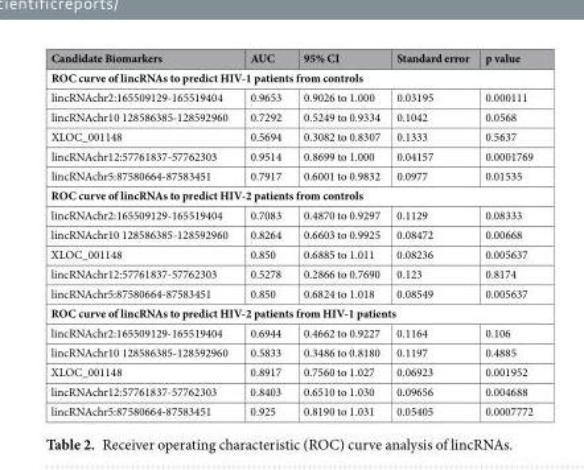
<table><thead><tr><td>Candidate Biomarkers</td><td>AUC</td><td>95% CI</td><td>Standard error</td><td>p value</td></tr></thead><tbody><tr><td colspan="5">ROC curve of lincRNAs to predict HIV-1 patients from controls</td></tr><tr><td>lincRNAchr2:165509129-165519404</td><td>0.9653</td><td>0.9026 to 1.000</td><td>0.03195</td><td>0.000111</td></tr><tr><td>lincRNAchr10 128586385-128592960</td><td>0.7292</td><td>0.5249 to 0.9334</td><td>0.1042</td><td>0.0568</td></tr><tr><td>XLOC_001148</td><td>0.5694</td><td>0.3082 to 0.8307</td><td>0.1333</td><td>0.5637</td></tr><tr><td>lincRNAchr12:57761837-57762303</td><td>0.9514</td><td>0.8699 to 1.000</td><td>0.04157</td><td>0.0001769</td></tr><tr><td>lincRNAchr5:87580664-87583451</td><td>0.7917</td><td>0.6001 to 0.9832</td><td>0.0977</td><td>0.01535</td></tr><tr><td colspan="5">ROC curve of lincRNAs to predict HIV-2 patients from controls</td></tr><tr><td>lincRNAchr2:165509129-165519404</td><td>0.7083</td><td>0.4870 to 0.9297</td><td>0.1129</td><td>0.08333</td></tr><tr><td>lincRNAchr10 128586385-128592960</td><td>0.8264</td><td>0.6603 to 0.9925</td><td>0.08472</td><td>0.00668</td></tr><tr><td>XLOC_001148</td><td>0.850</td><td>0.6885 to 1.011</td><td>0.08236</td><td>0.005637</td></tr><tr><td>lincRNAchr12:57761837-57762303</td><td>0.5278</td><td>0.2866 to 0.7690</td><td>0.123</td><td>0.8174</td></tr><tr><td>lincRNAchr5:87580664-87583451</td><td>0.850</td><td>0.6824 to 1.018</td><td>0.08549</td><td>0.005637</td></tr><tr><td colspan="5">ROC curve of lincRNAs to predict HIV-2 patients from HIV-1 patients</td></tr><tr><td>lincRNAchr2:165509129-165519404</td><td>0.6944</td><td>0.4662 to 0.9227</td><td>0.1164</td><td>0.106</td></tr><tr><td>lincRNAchr10 128586385-128592960</td><td>0.5833</td><td>0.3486 to 0.8180</td><td>0.1197</td><td>0.4885</td></tr><tr><td>XLOC_001148</td><td>0.8917</td><td>0.7560 to 1.027</td><td>0.06923</td><td>0.001952</td></tr><tr><td>lincRNAchr12:57761837-57762303</td><td>0.8403</td><td>0.6510 to 1.030</td><td>0.09656</td><td>0.004688</td></tr><tr><td>lincRNAchr5:87580664-87583451</td><td>0.925</td><td>0.8190 to 1.031</td><td>0.05405</td><td>0.0007772</td></tr></tbody></table>